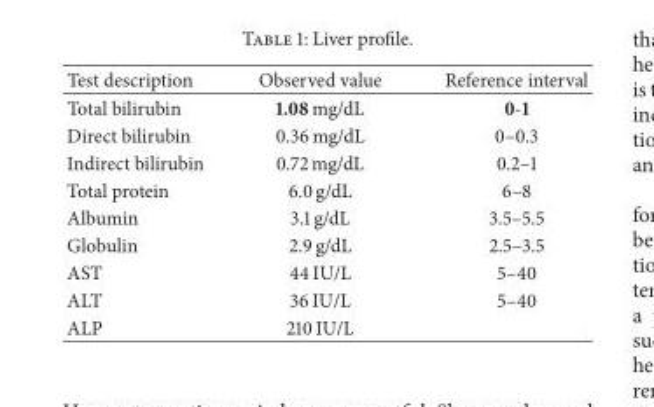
<table><thead><tr><td>Test description</td><td>Observed value</td><td>Reference interval</td></tr></thead><tbody><tr><td>Total bilirubin</td><td>1.08 mg/dL</td><td>0-1</td></tr><tr><td>Direct bilirubin</td><td>0.36 mg/dL</td><td>0–0.3</td></tr><tr><td>Indirect bilirubin</td><td>0.72 mg/dL</td><td>0.2–1</td></tr><tr><td>Total protein</td><td>6.0 g/dL</td><td>6–8</td></tr><tr><td>Albumin</td><td>3.1 g/dL</td><td>3.5–5.5</td></tr><tr><td>Globulin</td><td>2.9 g/dL</td><td>2.5–3.5</td></tr><tr><td>AST</td><td>44 IU/L</td><td>5–40</td></tr><tr><td>ALT</td><td>36 IU/L</td><td>5–40</td></tr><tr><td>ALP</td><td>210 IU/L</td><td></td></tr></tbody></table>